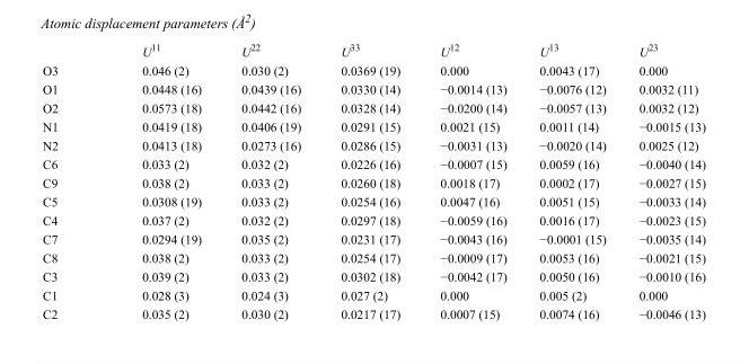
<table><thead><tr><td></td><td>U<sup>11</sup></td><td>U<sup>22</sup></td><td>U<sup>33</sup></td><td>U<sup>12</sup></td><td>U<sup>13</sup></td><td>U<sup>23</sup></td></tr></thead><tbody><tr><td>O3</td><td>0.046 (2)</td><td>0.030 (2)</td><td>0.0369 (19)</td><td>0.000</td><td>0.0043 (17)</td><td>0.000</td></tr><tr><td>O1</td><td>0.0448 (16)</td><td>0.0439 (16)</td><td>0.0330 (14)</td><td>−0.0014 (13)</td><td>−0.0076 (12)</td><td>0.0032 (11)</td></tr><tr><td>O2</td><td>0.0573 (18)</td><td>0.0442 (16)</td><td>0.0328 (14)</td><td>−0.0200 (14)</td><td>−0.0057 (13)</td><td>0.0032 (12)</td></tr><tr><td>N1</td><td>0.0419 (18)</td><td>0.0406 (19)</td><td>0.0291 (15)</td><td>0.0021 (15)</td><td>0.0011 (14)</td><td>−0.0015 (13)</td></tr><tr><td>N2</td><td>0.0413 (18)</td><td>0.0273 (16)</td><td>0.0286 (15)</td><td>−0.0031 (13)</td><td>−0.0020 (14)</td><td>0.0025 (12)</td></tr><tr><td>C6</td><td>0.033 (2)</td><td>0.032 (2)</td><td>0.0226 (16)</td><td>−0.0007 (15)</td><td>0.0059 (16)</td><td>−0.0040 (14)</td></tr><tr><td>C9</td><td>0.038 (2)</td><td>0.033 (2)</td><td>0.0260 (18)</td><td>0.0018 (17)</td><td>0.0002 (17)</td><td>−0.0027 (15)</td></tr><tr><td>C5</td><td>0.0308 (19)</td><td>0.033 (2)</td><td>0.0254 (16)</td><td>0.0047 (16)</td><td>0.0051 (15)</td><td>−0.0033 (14)</td></tr><tr><td>C4</td><td>0.037 (2)</td><td>0.032 (2)</td><td>0.0297 (18)</td><td>−0.0059 (16)</td><td>0.0016 (17)</td><td>−0.0023 (15)</td></tr><tr><td>C7</td><td>0.0294 (19)</td><td>0.035 (2)</td><td>0.0231 (17)</td><td>−0.0043 (16)</td><td>−0.0001 (15)</td><td>−0.0035 (14)</td></tr><tr><td>C8</td><td>0.038 (2)</td><td>0.033 (2)</td><td>0.0254 (17)</td><td>−0.0009 (17)</td><td>0.0053 (16)</td><td>−0.0021 (15)</td></tr><tr><td>C3</td><td>0.039 (2)</td><td>0.033 (2)</td><td>0.0302 (18)</td><td>−0.0042 (17)</td><td>0.0050 (16)</td><td>−0.0010 (16)</td></tr><tr><td>C1</td><td>0.028 (3)</td><td>0.024 (3)</td><td>0.027 (2)</td><td>0.000</td><td>0.005 (2)</td><td>0.000</td></tr><tr><td>C2</td><td>0.035 (2)</td><td>0.030 (2)</td><td>0.0217 (17)</td><td>0.0007 (15)</td><td>0.0074 (16)</td><td>−0.0046 (13)</td></tr></tbody></table>